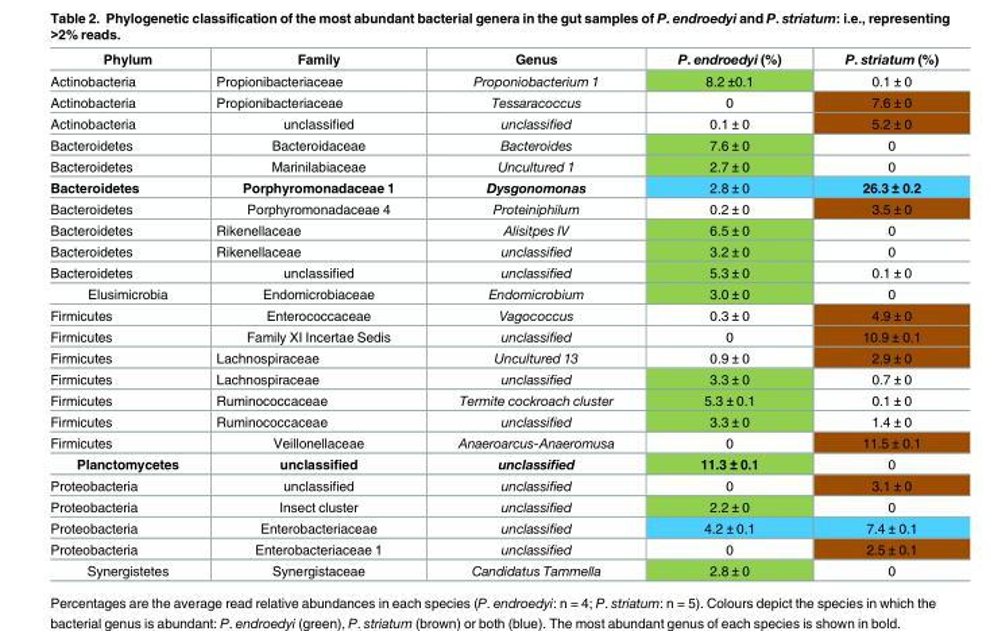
<table><thead><tr><td>Phylum</td><td>Family</td><td>Genus</td><td>P. endroedyi (%)</td><td>P. striatum (%)</td></tr></thead><tbody><tr><td>Actinobacteria</td><td>Propionibacteriaceae</td><td>Proponiobacterium 1</td><td>8.2 ±0.1</td><td>0.1 ± 0</td></tr><tr><td>Actinobacteria</td><td>Propionibacteriaceae</td><td>Tessaracoccus</td><td>0</td><td>7.6 ± 0</td></tr><tr><td>Actinobacteria</td><td>unclassified</td><td>unclassified</td><td>0.1 ± 0</td><td>5.2 ± 0</td></tr><tr><td>Bacteroidetes</td><td>Bacteroidaceae</td><td>Bacteroides</td><td>7.6 ± 0</td><td>0</td></tr><tr><td>Bacteroidetes</td><td>Marinilabiaceae</td><td>Uncultured 1</td><td>2.7 ± 0</td><td>0</td></tr><tr><td>Bacteroidetes</td><td>Porphyromonadaceae 1</td><td>Dysgonomonas</td><td>2.8 ± 0</td><td>26.3 ± 0.2</td></tr><tr><td>Bacteroidetes</td><td>Porphyromonadaceae 4</td><td>Proteiniphilum</td><td>0.2 ± 0</td><td>3.5 ± 0</td></tr><tr><td>Bacteroidetes</td><td>Rikenellaceae</td><td>Alisitpes IV</td><td>6.5 ± 0</td><td>0</td></tr><tr><td>Bacteroidetes</td><td>Rikenellaceae</td><td>unclassified</td><td>3.2 ± 0</td><td>0</td></tr><tr><td>Bacteroidetes</td><td>unclassified</td><td>unclassified</td><td>5.3 ± 0</td><td>0.1 ± 0</td></tr><tr><td>Elusimicrobia</td><td>Endomicrobiaceae</td><td>Endomicrobium</td><td>3.0 ± 0</td><td>0</td></tr><tr><td>Firmicutes</td><td>Enterococcaceae</td><td>Vagococcus</td><td>0.3 ± 0</td><td>4.9 ± 0</td></tr><tr><td>Firmicutes</td><td>Family XI Incertae Sedis</td><td>unclassified</td><td>0</td><td>10.9 ± 0.1</td></tr><tr><td>Firmicutes</td><td>Lachnospiraceae</td><td>Uncultured 13</td><td>0.9 ± 0</td><td>2.9 ± 0</td></tr><tr><td>Firmicutes</td><td>Lachnospiraceae</td><td>unclassified</td><td>3.3 ± 0</td><td>0.7 ± 0</td></tr><tr><td>Firmicutes</td><td>Ruminococcaceae</td><td>Termite cockroach cluster</td><td>5.3 ± 0.1</td><td>0.1 ± 0</td></tr><tr><td>Firmicutes</td><td>Ruminococcaceae</td><td>unclassified</td><td>3.3 ± 0</td><td>1.4 ± 0</td></tr><tr><td>Firmicutes</td><td>Veillonellaceae</td><td>Anaeroarcus-Anaeromusa</td><td>0</td><td>11.5 ± 0.1</td></tr><tr><td>Planctomycetes</td><td>unclassified</td><td>unclassified</td><td>11.3 ± 0.1</td><td>0</td></tr><tr><td>Proteobacteria</td><td>unclassified</td><td>unclassified</td><td>0</td><td>3.1 ± 0</td></tr><tr><td>Proteobacteria</td><td>Insect cluster</td><td>unclassified</td><td>2.2 ± 0</td><td>0</td></tr><tr><td>Proteobacteria</td><td>Enterobacteriaceae</td><td>unclassified</td><td>4.2 ± 0.1</td><td>7.4 ± 0.1</td></tr><tr><td>Proteobacteria</td><td>Enterobacteriaceae 1</td><td>unclassified</td><td>0</td><td>2.5 ± 0.1</td></tr><tr><td>Synergistetes</td><td>Synergistaceae</td><td>Candidatus Tammella</td><td>2.8 ± 0</td><td>0</td></tr></tbody></table>